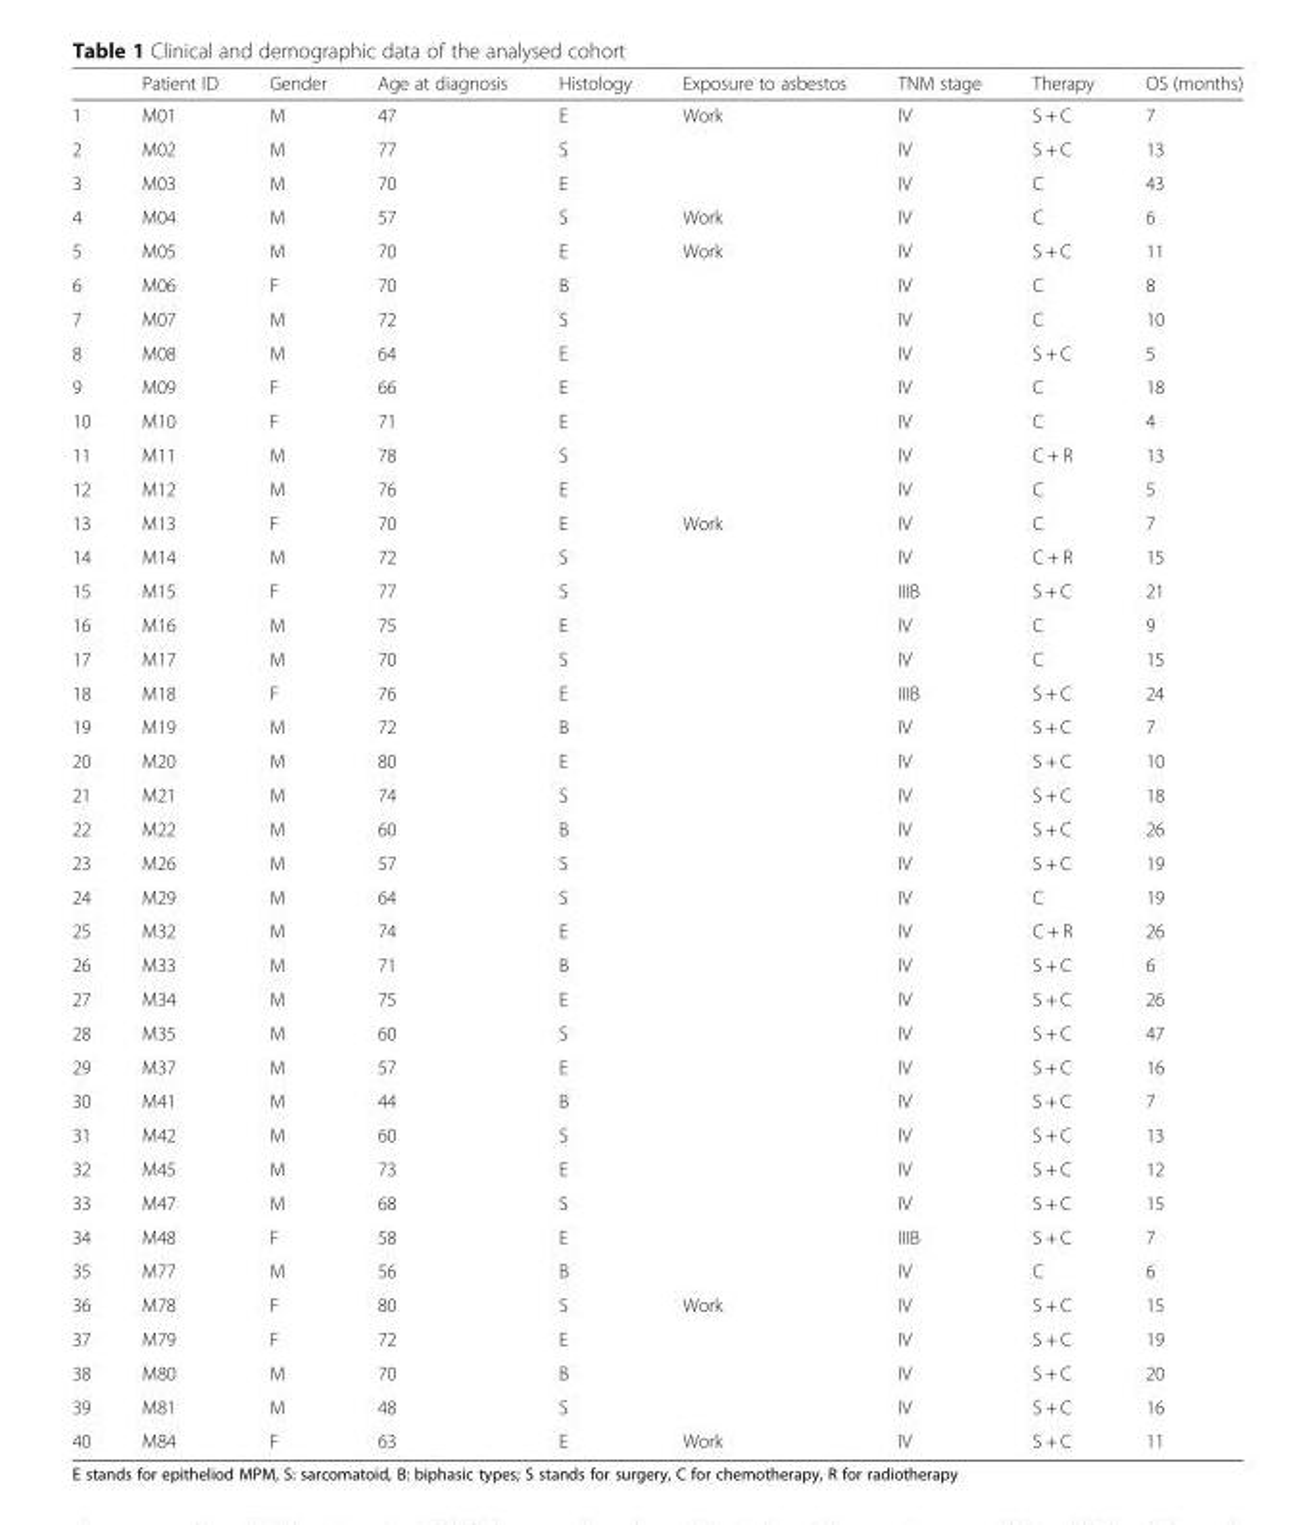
<table><thead><tr><td></td><td>Patient ID</td><td>Gender</td><td>Age at diagnosis</td><td>Histology</td><td>Exposure to asbestos</td><td>TNM stage</td><td>Therapy</td><td>OS (months)</td></tr></thead><tbody><tr><td>1</td><td>M01</td><td>M</td><td>47</td><td>E</td><td>Work</td><td>IV</td><td>S + C</td><td>7</td></tr><tr><td>2</td><td>M02</td><td>M</td><td>77</td><td>S</td><td></td><td>IV</td><td>S + C</td><td>13</td></tr><tr><td>3</td><td>M03</td><td>M</td><td>70</td><td>E</td><td></td><td>IV</td><td>C</td><td>43</td></tr><tr><td>4</td><td>M04</td><td>M</td><td>57</td><td>S</td><td>Work</td><td>IV</td><td>C</td><td>6</td></tr><tr><td>5</td><td>M05</td><td>M</td><td>70</td><td>E</td><td>Work</td><td>IV</td><td>S + C</td><td>11</td></tr><tr><td>6</td><td>M06</td><td>F</td><td>70</td><td>B</td><td></td><td>IV</td><td>C</td><td>8</td></tr><tr><td>7</td><td>M07</td><td>M</td><td>72</td><td>S</td><td></td><td>IV</td><td>C</td><td>10</td></tr><tr><td>8</td><td>M08</td><td>M</td><td>64</td><td>E</td><td></td><td>IV</td><td>S + C</td><td>5</td></tr><tr><td>9</td><td>M09</td><td>F</td><td>66</td><td>E</td><td></td><td>IV</td><td>C</td><td>18</td></tr><tr><td>10</td><td>M10</td><td>F</td><td>71</td><td>E</td><td></td><td>IV</td><td>C</td><td>4</td></tr><tr><td>11</td><td>M11</td><td>M</td><td>78</td><td>S</td><td></td><td>IV</td><td>C + R</td><td>13</td></tr><tr><td>12</td><td>M12</td><td>M</td><td>76</td><td>E</td><td></td><td>IV</td><td>C</td><td>5</td></tr><tr><td>13</td><td>M13</td><td>F</td><td>70</td><td>E</td><td>Work</td><td>IV</td><td>C</td><td>7</td></tr><tr><td>14</td><td>M14</td><td>M</td><td>72</td><td>S</td><td></td><td>IV</td><td>C + R</td><td>15</td></tr><tr><td>15</td><td>M15</td><td>F</td><td>77</td><td>S</td><td></td><td>IIIB</td><td>S + C</td><td>21</td></tr><tr><td>16</td><td>M16</td><td>M</td><td>75</td><td>E</td><td></td><td>IV</td><td>C</td><td>9</td></tr><tr><td>17</td><td>M17</td><td>M</td><td>70</td><td>S</td><td></td><td>IV</td><td>C</td><td>15</td></tr><tr><td>18</td><td>M18</td><td>F</td><td>76</td><td>E</td><td></td><td>IIIB</td><td>S + C</td><td>24</td></tr><tr><td>19</td><td>M19</td><td>M</td><td>72</td><td>B</td><td></td><td>IV</td><td>S + C</td><td>7</td></tr><tr><td>20</td><td>M20</td><td>M</td><td>80</td><td>E</td><td></td><td>IV</td><td>S + C</td><td>10</td></tr><tr><td>21</td><td>M21</td><td>M</td><td>74</td><td>S</td><td></td><td>IV</td><td>S + C</td><td>18</td></tr><tr><td>22</td><td>M22</td><td>M</td><td>60</td><td>B</td><td></td><td>IV</td><td>S + C</td><td>26</td></tr><tr><td>23</td><td>M26</td><td>M</td><td>57</td><td>S</td><td></td><td>IV</td><td>S + C</td><td>19</td></tr><tr><td>24</td><td>M29</td><td>M</td><td>64</td><td>S</td><td></td><td>IV</td><td>C</td><td>19</td></tr><tr><td>25</td><td>M32</td><td>M</td><td>74</td><td>E</td><td></td><td>IV</td><td>C + R</td><td>26</td></tr><tr><td>26</td><td>M33</td><td>M</td><td>71</td><td>B</td><td></td><td>IV</td><td>S + C</td><td>6</td></tr><tr><td>27</td><td>M34</td><td>M</td><td>75</td><td>E</td><td></td><td>IV</td><td>S + C</td><td>26</td></tr><tr><td>28</td><td>M35</td><td>M</td><td>60</td><td>S</td><td></td><td>IV</td><td>S + C</td><td>47</td></tr><tr><td>29</td><td>M37</td><td>M</td><td>57</td><td>E</td><td></td><td>IV</td><td>S + C</td><td>16</td></tr><tr><td>30</td><td>M41</td><td>M</td><td>44</td><td>B</td><td></td><td>IV</td><td>S + C</td><td>7</td></tr><tr><td>31</td><td>M42</td><td>M</td><td>60</td><td>S</td><td></td><td>IV</td><td>S + C</td><td>13</td></tr><tr><td>32</td><td>M45</td><td>M</td><td>73</td><td>E</td><td></td><td>IV</td><td>S + C</td><td>12</td></tr><tr><td>33</td><td>M47</td><td>M</td><td>68</td><td>S</td><td></td><td>IV</td><td>S + C</td><td>15</td></tr><tr><td>34</td><td>M48</td><td>F</td><td>58</td><td>E</td><td></td><td>IIIB</td><td>S + C</td><td>7</td></tr><tr><td>35</td><td>M77</td><td>M</td><td>56</td><td>B</td><td></td><td>IV</td><td>C</td><td>6</td></tr><tr><td>36</td><td>M78</td><td>F</td><td>80</td><td>S</td><td>Work</td><td>IV</td><td>S + C</td><td>15</td></tr><tr><td>37</td><td>M79</td><td>F</td><td>72</td><td>E</td><td></td><td>IV</td><td>S + C</td><td>19</td></tr><tr><td>38</td><td>M80</td><td>M</td><td>70</td><td>B</td><td></td><td>IV</td><td>S + C</td><td>20</td></tr><tr><td>39</td><td>M81</td><td>M</td><td>48</td><td>S</td><td></td><td>IV</td><td>S + C</td><td>16</td></tr><tr><td>40</td><td>M84</td><td>F</td><td>63</td><td>E</td><td>Work</td><td>IV</td><td>S + C</td><td>11</td></tr></tbody></table>